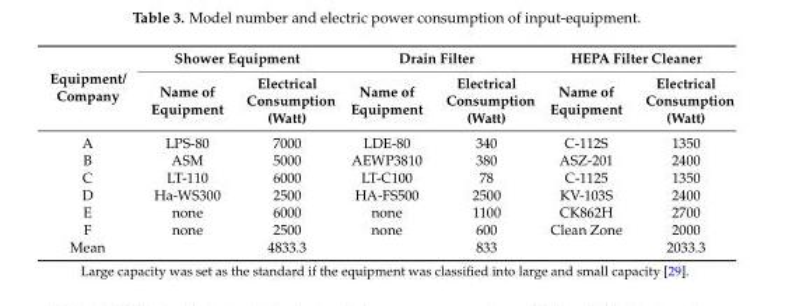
<table><thead><tr><td rowspan="2">Equipment/ Company</td><td colspan="2">Shower Equipment</td><td colspan="2">Drain Filter</td><td colspan="2">HEPA Filter Cleaner</td></tr><tr><td>Name of Equipment</td><td>Electrical Consumption (Watt)</td><td>Name of Equipment</td><td>Electrical Consumption (Watt)</td><td>Name of Equipment</td><td>Electrical Consumption (Watt)</td></tr></thead><tbody><tr><td>A</td><td>LPS-80</td><td>7000</td><td>LDE-80</td><td>340</td><td>C-112S</td><td>1350</td></tr><tr><td>B</td><td>ASM</td><td>5000</td><td>AEWP3810</td><td>380</td><td>ASZ-201</td><td>2400</td></tr><tr><td>C</td><td>LT-110</td><td>6000</td><td>LT-C100</td><td>78</td><td>C-1125</td><td>1350</td></tr><tr><td>D</td><td>Ha-WS300</td><td>2500</td><td>HA-FS500</td><td>2500</td><td>KV-103S</td><td>2400</td></tr><tr><td>E</td><td>none</td><td>6000</td><td>none</td><td>1100</td><td>CK862H</td><td>2700</td></tr><tr><td>F</td><td>none</td><td>2500</td><td>none</td><td>600</td><td>Clean Zone</td><td>2000</td></tr><tr><td>Mean</td><td></td><td>4833.3</td><td></td><td>833</td><td></td><td>2033.3</td></tr></tbody></table>